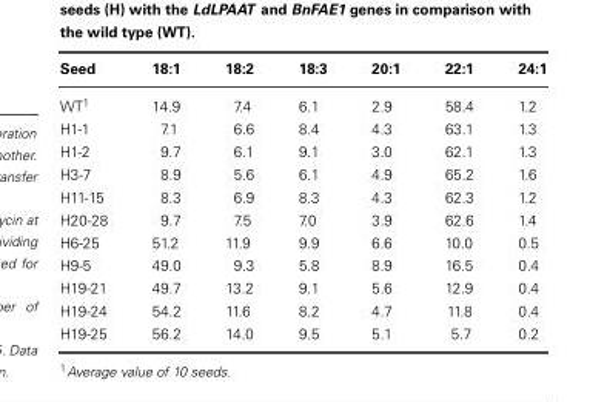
<table><thead><tr><td>Seed</td><td>18:1</td><td>18:2</td><td>18:3</td><td>20:1</td><td>22:1</td><td>24:1</td></tr></thead><tbody><tr><td>WT<sup>1</sup></td><td>14.9</td><td>7.4</td><td>6.1</td><td>2.9</td><td>58.4</td><td>1.2</td></tr><tr><td>H1-1</td><td>7.1</td><td>6.6</td><td>8.4</td><td>4.3</td><td>63.1</td><td>1.3</td></tr><tr><td>H1-2</td><td>9.7</td><td>6.1</td><td>9.1</td><td>3.0</td><td>62.1</td><td>1.3</td></tr><tr><td>H3-7</td><td>8.9</td><td>5.6</td><td>6.1</td><td>4.9</td><td>65.2</td><td>1.6</td></tr><tr><td>H11-15</td><td>8.3</td><td>6.9</td><td>8.3</td><td>4.3</td><td>62.3</td><td>1.2</td></tr><tr><td>H20-28</td><td>9.7</td><td>7.5</td><td>7.0</td><td>3.9</td><td>62.6</td><td>1.4</td></tr><tr><td>H6-25</td><td>51.2</td><td>11.9</td><td>9.9</td><td>6.6</td><td>10.0</td><td>0.5</td></tr><tr><td>H9-5</td><td>49.0</td><td>9.3</td><td>5.8</td><td>8.9</td><td>16.5</td><td>0.4</td></tr><tr><td>H19-21</td><td>49.7</td><td>13.2</td><td>9.1</td><td>5.6</td><td>12.9</td><td>0.4</td></tr><tr><td>H19-24</td><td>54.2</td><td>11.6</td><td>8.2</td><td>4.7</td><td>11.8</td><td>0.4</td></tr><tr><td>H19-25</td><td>56.2</td><td>14.0</td><td>9.5</td><td>5.1</td><td>5.7</td><td>0.2</td></tr></tbody></table>